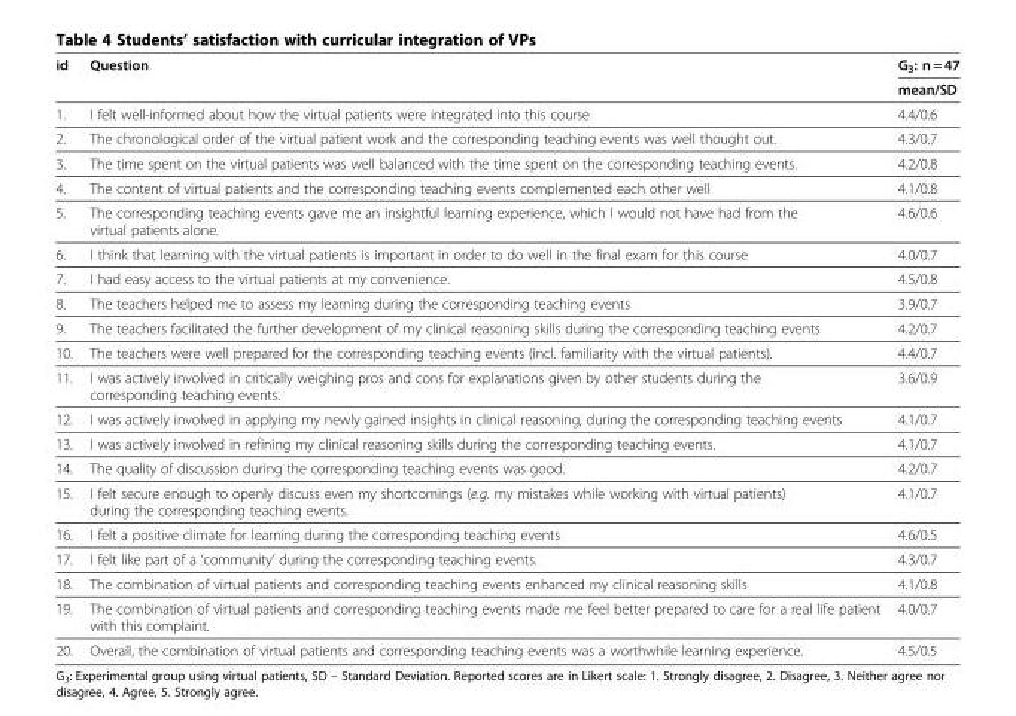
<table><thead><tr><td rowspan="2">id</td><td rowspan="2">Question</td><td rowspan="2">G<sub>3</sub>: n = 47 mean/SD</td></tr><tr></tr></thead><tbody><tr><td>1.</td><td>I felt well-informed about how the virtual patients were integrated into this course</td><td>4.4/0.6</td></tr><tr><td>2.</td><td>The chronological order of the virtual patient work and the corresponding teaching events was well thought out.</td><td>4.3/0.7</td></tr><tr><td>3.</td><td>The time spent on the virtual patients was well balanced with the time spent on the corresponding teaching events.</td><td>4.2/0.8</td></tr><tr><td>4.</td><td>The content of virtual patients and the corresponding teaching events complemented each other well</td><td>4.1/0.8</td></tr><tr><td>5.</td><td>The corresponding teaching events gave me an insightful learning experience, which I would not have had from the virtual patients alone.</td><td>4.6/0.6</td></tr><tr><td>6.</td><td>I think that learning with the virtual patients is important in order to do well in the final exam for this course</td><td>4.0/0.7</td></tr><tr><td>7.</td><td>I had easy access to the virtual patients at my convenience.</td><td>4.5/0.8</td></tr><tr><td>8.</td><td>The teachers helped me to assess my learning during the corresponding teaching events</td><td>3.9/0.7</td></tr><tr><td>9.</td><td>The teachers facilitated the further development of my clinical reasoning skills during the corresponding teaching events</td><td>4.2/0.7</td></tr><tr><td>10.</td><td>The teachers were well prepared for the corresponding teaching events (incl. familiarity with the virtual patients).</td><td>4.4/0.7</td></tr><tr><td>11.</td><td>I was actively involved in critically weighing pros and cons for explanations given by other students during the corresponding teaching events.</td><td>3.6/0.9</td></tr><tr><td>12.</td><td>I was actively involved in applying my newly gained insights in clinical reasoning, during the corresponding teaching events</td><td>4.1/0.7</td></tr><tr><td>13.</td><td>I was actively involved in refining my clinical reasoning skills during the corresponding teaching events.</td><td>4.1/0.7</td></tr><tr><td>14.</td><td>The quality of discussion during the corresponding teaching events was good.</td><td>4.2/0.7</td></tr><tr><td>15.</td><td>I felt secure enough to openly discuss even my shortcomings (e.g. my mistakes while working with virtual patients) during the corresponding teaching events.</td><td>4.1/0.7</td></tr><tr><td>16.</td><td>I felt a positive climate for learning during the corresponding teaching events</td><td>4.6/0.5</td></tr><tr><td>17.</td><td>I felt like part of a ‘community’ during the corresponding teaching events.</td><td>4.3/0.7</td></tr><tr><td>18.</td><td>The combination of virtual patients and corresponding teaching events enhanced my clinical reasoning skills</td><td>4.1/0.8</td></tr><tr><td>19.</td><td>The combination of virtual patients and corresponding teaching events made me feel better prepared to care for a real life patient with this complaint.</td><td>4.0/0.7</td></tr><tr><td>20.</td><td>Overall, the combination of virtual patients and corresponding teaching events was a worthwhile learning experience.</td><td>4.5/0.5</td></tr></tbody></table>